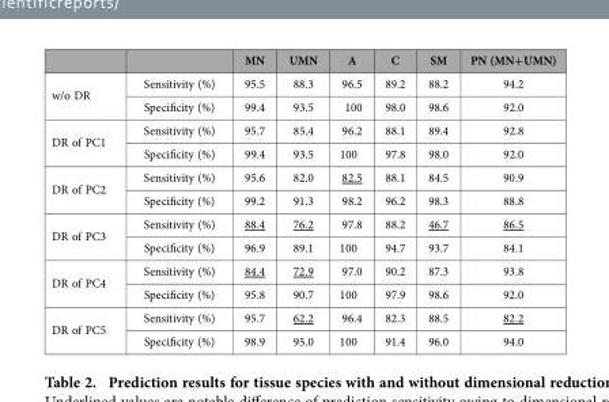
<table><thead><tr><td></td><td></td><td>MN</td><td>UMN</td><td>A</td><td>C</td><td>SM</td><td>PN (MN+UMN)</td></tr></thead><tbody><tr><td rowspan="2">w/o DR</td><td>Sensitivity (%)</td><td>95.5</td><td>88.3</td><td>96.5</td><td>89.2</td><td>88.2</td><td>94.2</td></tr><tr><td>Specificity (%)</td><td>99.4</td><td>93.5</td><td>100</td><td>98.0</td><td>98.6</td><td>92.0</td></tr><tr><td rowspan="2">DR of PC1</td><td>Sensitivity (%)</td><td>95.7</td><td>85.4</td><td>96.2</td><td>88.1</td><td>89.4</td><td>92.8</td></tr><tr><td>Specificity (%)</td><td>99.4</td><td>93.5</td><td>100</td><td>97.8</td><td>98.0</td><td>92.0</td></tr><tr><td rowspan="2">DR of PC2</td><td>Sensitivity (%)</td><td>95.6</td><td>82.0</td><td>82.5</td><td>88.1</td><td>84.5</td><td>90.9</td></tr><tr><td>Specificity (%)</td><td>99.2</td><td>91.3</td><td>98.2</td><td>96.2</td><td>98.3</td><td>88.8</td></tr><tr><td rowspan="2">DR of PC3</td><td>Sensitivity (%)</td><td>88.4</td><td>76.2</td><td>97.8</td><td>88.2</td><td>46.7</td><td>86.5</td></tr><tr><td>Specificity (%)</td><td>96.9</td><td>89.1</td><td>100</td><td>94.7</td><td>93.7</td><td>84.1</td></tr><tr><td rowspan="2">DR of PC4</td><td>Sensitivity (%)</td><td>84.4</td><td>72.9</td><td>97.0</td><td>90.2</td><td>87.3</td><td>93.8</td></tr><tr><td>Specificity (%)</td><td>95.8</td><td>90.7</td><td>100</td><td>97.9</td><td>98.6</td><td>92.0</td></tr><tr><td rowspan="2">DR of PC5</td><td>Sensitivity (%)</td><td>95.7</td><td>62.2</td><td>96.4</td><td>82.3</td><td>88.5</td><td>82.2</td></tr><tr><td>Specificity (%)</td><td>98.9</td><td>95.0</td><td>100</td><td>91.4</td><td>96.0</td><td>94.0</td></tr></tbody></table>